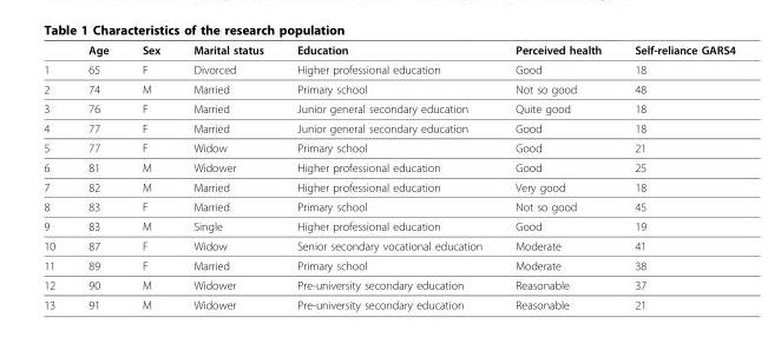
<table><thead><tr><td></td><td>Age</td><td>Sex</td><td>Marital status</td><td>Education</td><td>Perceived health</td><td>Self-reliance GARS4</td></tr></thead><tbody><tr><td>1</td><td>65</td><td>F</td><td>Divorced</td><td>Higher professional education</td><td>Good</td><td>18</td></tr><tr><td>2</td><td>74</td><td>M</td><td>Married</td><td>Primary school</td><td>Not so good</td><td>48</td></tr><tr><td>3</td><td>76</td><td>F</td><td>Married</td><td>Junior general secondary education</td><td>Quite good</td><td>18</td></tr><tr><td>4</td><td>77</td><td>F</td><td>Married</td><td>Junior general secondary education</td><td>Good</td><td>18</td></tr><tr><td>5</td><td>77</td><td>F</td><td>Widow</td><td>Primary school</td><td>Good</td><td>21</td></tr><tr><td>6</td><td>81</td><td>M</td><td>Widower</td><td>Higher professional education</td><td>Good</td><td>25</td></tr><tr><td>7</td><td>82</td><td>M</td><td>Married</td><td>Higher professional education</td><td>Very good</td><td>18</td></tr><tr><td>8</td><td>83</td><td>F</td><td>Married</td><td>Primary school</td><td>Not so good</td><td>45</td></tr><tr><td>9</td><td>83</td><td>M</td><td>Single</td><td>Higher professional education</td><td>Good</td><td>19</td></tr><tr><td>10</td><td>87</td><td>F</td><td>Widow</td><td>Senior secondary vocational education</td><td>Moderate</td><td>41</td></tr><tr><td>11</td><td>89</td><td>F</td><td>Married</td><td>Primary school</td><td>Moderate</td><td>38</td></tr><tr><td>12</td><td>90</td><td>M</td><td>Widower</td><td>Pre-university secondary education</td><td>Reasonable</td><td>37</td></tr><tr><td>13</td><td>91</td><td>M</td><td>Widower</td><td>Pre-university secondary education</td><td>Reasonable</td><td>21</td></tr></tbody></table>